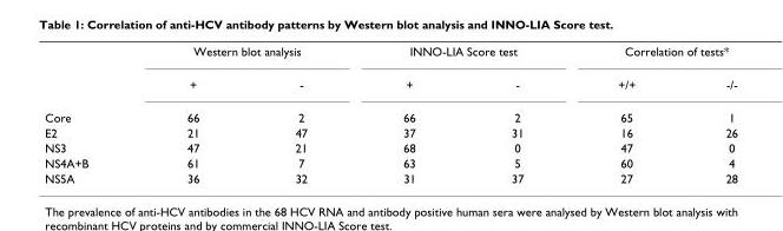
<table><thead><tr><td rowspan="2"></td><td colspan="2">Western blot analysis</td><td colspan="2">INNO-LIA Score test</td><td colspan="2">Correlation of tests*</td></tr><tr><td>+</td><td>-</td><td>+</td><td>-</td><td>+/+</td><td>-/-</td></tr></thead><tbody><tr><td>Core</td><td>66</td><td>2</td><td>66</td><td>2</td><td>65</td><td>1</td></tr><tr><td>E2</td><td>21</td><td>47</td><td>37</td><td>31</td><td>16</td><td>26</td></tr><tr><td>NS3</td><td>47</td><td>21</td><td>68</td><td>0</td><td>47</td><td>0</td></tr><tr><td>NS4A+B</td><td>61</td><td>7</td><td>63</td><td>5</td><td>60</td><td>4</td></tr><tr><td>NS5A</td><td>36</td><td>32</td><td>31</td><td>37</td><td>27</td><td>28</td></tr></tbody></table>